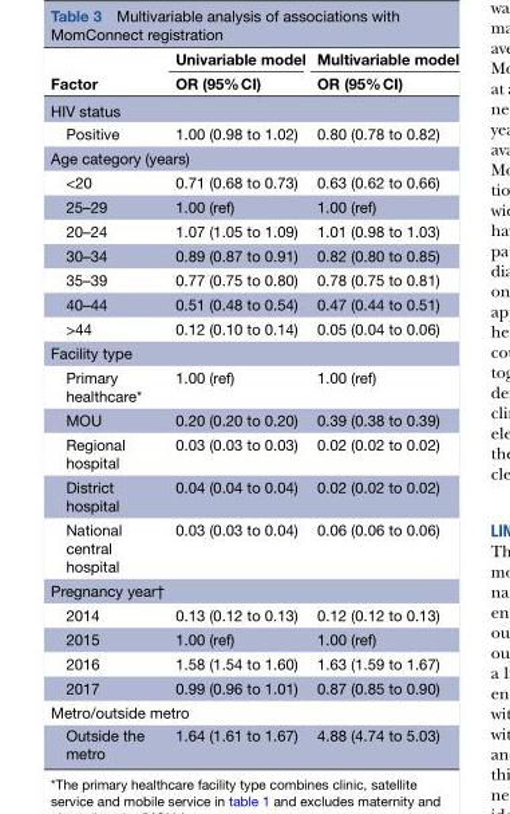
<table><thead><tr><td rowspan="2">Factor</td><td rowspan="2">Univariable model OR (95% CI)</td><td rowspan="2">Multivariable model OR (95% CI)</td></tr><tr></tr></thead><tbody><tr><td colspan="3">HIV status</td></tr><tr><td>Positive</td><td>1.00 (0.98 to 1.02)</td><td>0.80 (0.78 to 0.82)</td></tr><tr><td colspan="3">Age category (years)</td></tr><tr><td>&lt;20</td><td>0.71 (0.68 to 0.73)</td><td>0.63 (0.62 to 0.66)</td></tr><tr><td>25–29</td><td>1.00 (ref)</td><td>1.00 (ref)</td></tr><tr><td>20–24</td><td>1.07 (1.05 to 1.09)</td><td>1.01 (0.98 to 1.03)</td></tr><tr><td>30–34</td><td>0.89 (0.87 to 0.91)</td><td>0.82 (0.80 to 0.85)</td></tr><tr><td>35–39</td><td>0.77 (0.75 to 0.80)</td><td>0.78 (0.75 to 0.81)</td></tr><tr><td>40–44</td><td>0.51 (0.48 to 0.54)</td><td>0.47 (0.44 to 0.51)</td></tr><tr><td>&gt;44</td><td>0.12 (0.10 to 0.14)</td><td>0.05 (0.04 to 0.06)</td></tr><tr><td colspan="3">Facility type</td></tr><tr><td>Primary healthcare*</td><td>1.00 (ref)</td><td>1.00 (ref)</td></tr><tr><td>MOU</td><td>0.20 (0.20 to 0.20)</td><td>0.39 (0.38 to 0.39)</td></tr><tr><td>Regional hospital</td><td>0.03 (0.03 to 0.03)</td><td>0.02 (0.02 to 0.02)</td></tr><tr><td>District hospital</td><td>0.04 (0.04 to 0.04)</td><td>0.02 (0.02 to 0.02)</td></tr><tr><td>National central hospital</td><td>0.03 (0.03 to 0.04)</td><td>0.06 (0.06 to 0.06)</td></tr><tr><td colspan="3">Pregnancy year†</td></tr><tr><td>2014</td><td>0.13 (0.12 to 0.13)</td><td>0.12 (0.12 to 0.13)</td></tr><tr><td>2015</td><td>1.00 (ref)</td><td>1.00 (ref)</td></tr><tr><td>2016</td><td>1.58 (1.54 to 1.60)</td><td>1.63 (1.59 to 1.67)</td></tr><tr><td>2017</td><td>0.99 (0.96 to 1.01)</td><td>0.87 (0.85 to 0.90)</td></tr><tr><td colspan="3">Metro/outside metro</td></tr><tr><td>Outside the metro</td><td>1.64 (1.61 to 1.67)</td><td>4.88 (4.74 to 5.03)</td></tr></tbody></table>